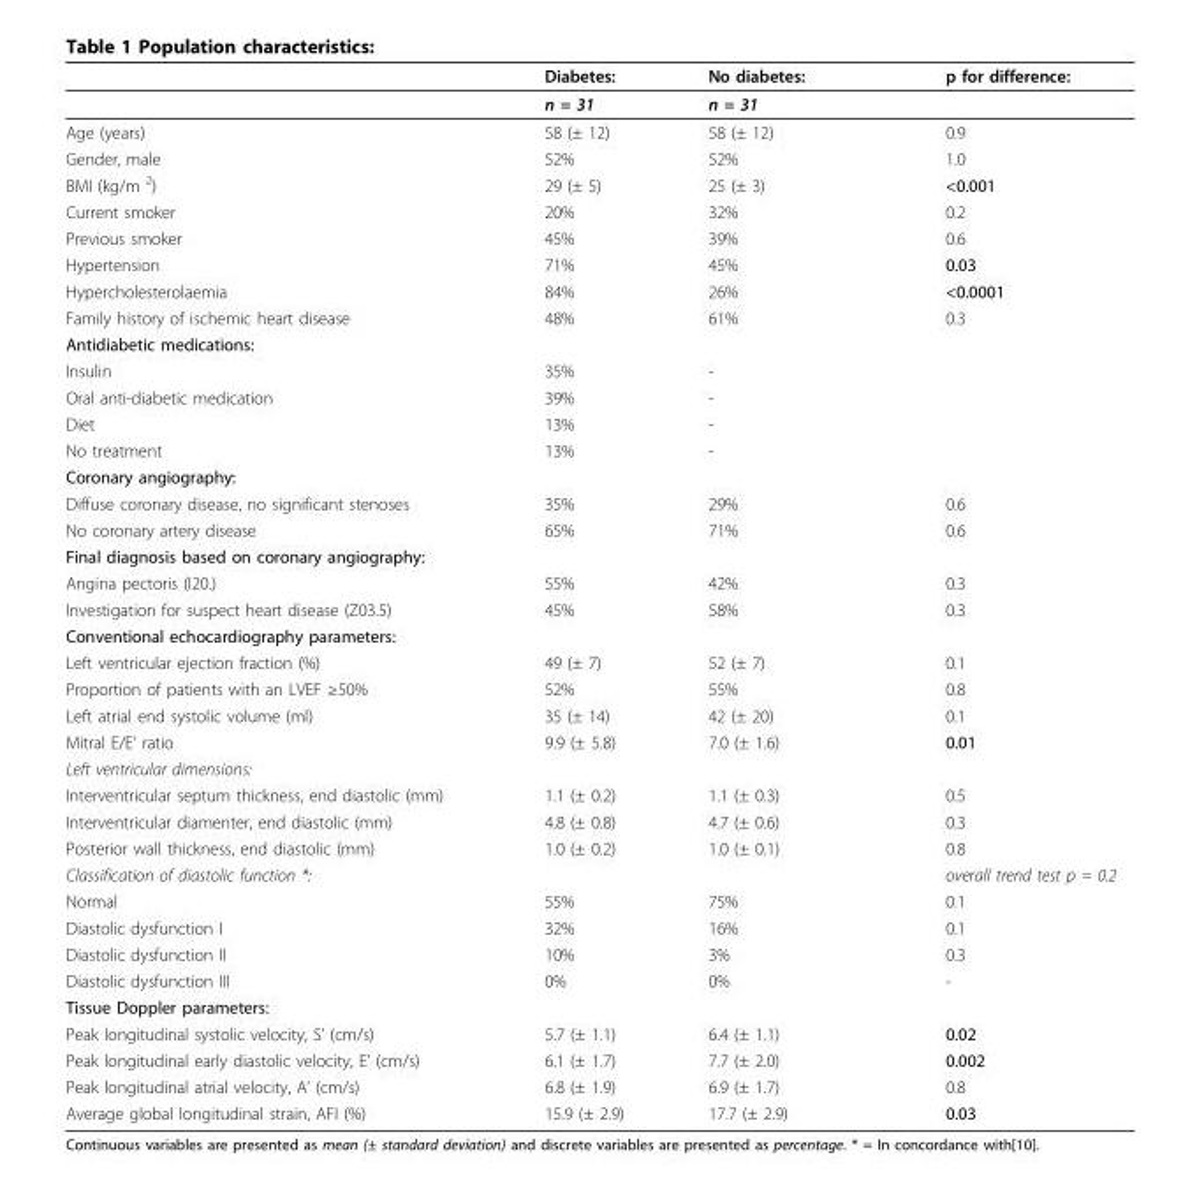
<table><thead><tr><td rowspan="2"></td><td rowspan="2">Diabetes: n = 31</td><td rowspan="2">No diabetes: n = 31</td><td rowspan="2">p for difference:</td></tr><tr></tr></thead><tbody><tr><td>Age (years)</td><td>58 (± 12)</td><td>58 (± 12)</td><td>0.9</td></tr><tr><td>Gender, male</td><td>52%</td><td>52%</td><td>1.0</td></tr><tr><td>BMI (kg/m <sup>2</sup>)</td><td>29 (± 5)</td><td>25 (± 3)</td><td>&lt;0.001</td></tr><tr><td>Current smoker</td><td>20%</td><td>32%</td><td>0.2</td></tr><tr><td>Previous smoker</td><td>45%</td><td>39%</td><td>0.6</td></tr><tr><td>Hypertension</td><td>71%</td><td>45%</td><td>0.03</td></tr><tr><td>Hypercholesterolaemia</td><td>84%</td><td>26%</td><td>&lt;0.0001</td></tr><tr><td>Family history of ischemic heart disease</td><td>48%</td><td>61%</td><td>0.3</td></tr><tr><td colspan="4">Antidiabetic medications:</td></tr><tr><td>Insulin</td><td>35%</td><td>-</td><td></td></tr><tr><td>Oral anti-diabetic medication</td><td>39%</td><td>-</td><td></td></tr><tr><td>Diet</td><td>13%</td><td>-</td><td></td></tr><tr><td>No treatment</td><td>13%</td><td>-</td><td></td></tr><tr><td colspan="4">Coronary angiography:</td></tr><tr><td>Diffuse coronary disease, no significant stenoses</td><td>35%</td><td>29%</td><td>0.6</td></tr><tr><td>No coronary artery disease</td><td>65%</td><td>71%</td><td>0.6</td></tr><tr><td colspan="4">Final diagnosis based on coronary angiography:</td></tr><tr><td>Angina pectoris (I20.)</td><td>55%</td><td>42%</td><td>0.3</td></tr><tr><td>Investigation for suspect heart disease (Z03.5)</td><td>45%</td><td>58%</td><td>0.3</td></tr><tr><td colspan="4">Conventional echocardiography parameters:</td></tr><tr><td>Left ventricular ejection fraction (%)</td><td>49 (± 7)</td><td>52 (± 7)</td><td>0.1</td></tr><tr><td>Proportion of patients with an LVEF ≥50%</td><td>52%</td><td>55%</td><td>0.8</td></tr><tr><td>Left atrial end systolic volume (ml)</td><td>35 (± 14)</td><td>42 (± 20)</td><td>0.1</td></tr><tr><td>Mitral E/E’ ratio</td><td>9.9 (± 5.8)</td><td>7.0 (± 1.6)</td><td>0.01</td></tr><tr><td colspan="4">Left ventricular dimensions:</td></tr><tr><td>Interventricular septum thickness, end diastolic (mm)</td><td>1.1 (± 0.2)</td><td>1.1 (± 0.3)</td><td>0.5</td></tr><tr><td>Interventricular diamenter, end diastolic (mm)</td><td>4.8 (± 0.8)</td><td>4.7 (± 0.6)</td><td>0.3</td></tr><tr><td>Posterior wall thickness, end diastolic (mm)</td><td>1.0 (± 0.2)</td><td>1.0 (± 0.1)</td><td>0.8</td></tr><tr><td>Classification of diastolic function *:</td><td></td><td></td><td>overall trend test p = 0.2</td></tr><tr><td>Normal</td><td>55%</td><td>75%</td><td>0.1</td></tr><tr><td>Diastolic dysfunction I</td><td>32%</td><td>16%</td><td>0.1</td></tr><tr><td>Diastolic dysfunction II</td><td>10%</td><td>3%</td><td>0.3</td></tr><tr><td>Diastolic dysfunction III</td><td>0%</td><td>0%</td><td>-</td></tr><tr><td colspan="4">Tissue Doppler parameters:</td></tr><tr><td>Peak longitudinal systolic velocity, S’ (cm/s)</td><td>5.7 (± 1.1)</td><td>6.4 (± 1.1)</td><td>0.02</td></tr><tr><td>Peak longitudinal early diastolic velocity, E’ (cm/s)</td><td>6.1 (± 1.7)</td><td>7.7 (± 2.0)</td><td>0.002</td></tr><tr><td>Peak longitudinal atrial velocity, A’ (cm/s)</td><td>6.8 (± 1.9)</td><td>6.9 (± 1.7)</td><td>0.8</td></tr><tr><td>Average global longitudinal strain, AFI (%)</td><td>15.9 (± 2.9)</td><td>17.7 (± 2.9)</td><td>0.03</td></tr></tbody></table>